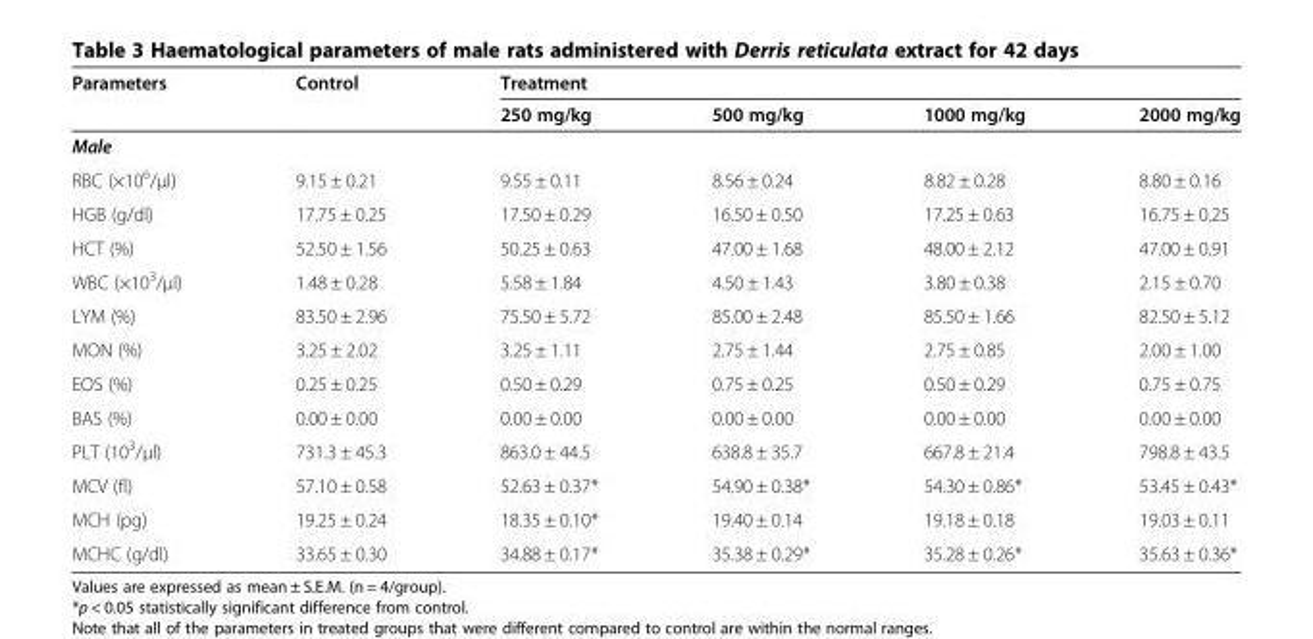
<table><thead><tr><td rowspan="2">Parameters</td><td rowspan="2">Control</td><td colspan="4">Treatment</td></tr><tr><td>250 mg/kg</td><td>500 mg/kg</td><td>1000 mg/kg</td><td>2000 mg/kg</td></tr></thead><tbody><tr><td colspan="6">Male</td></tr><tr><td>RBC (×10<sup>6</sup>/μl)</td><td>9.15 ± 0.21</td><td>9.55 ± 0.11</td><td>8.56 ± 0.24</td><td>8.82 ± 0.28</td><td>8.80 ± 0.16</td></tr><tr><td>HGB (g/dl)</td><td>17.75 ± 0.25</td><td>17.50 ± 0.29</td><td>16.50 ± 0.50</td><td>17.25 ± 0.63</td><td>16.75 ± 0.25</td></tr><tr><td>HCT (%)</td><td>52.50 ± 1.56</td><td>50.25 ± 0.63</td><td>47.00 ± 1.68</td><td>48.00 ± 2.12</td><td>47.00 ± 0.91</td></tr><tr><td>WBC (×10<sup>3</sup>/μl)</td><td>1.48 ± 0.28</td><td>5.58 ± 1.84</td><td>4.50 ± 1.43</td><td>3.80 ± 0.38</td><td>2.15 ± 0.70</td></tr><tr><td>LYM (%)</td><td>83.50 ± 2.96</td><td>75.50 ± 5.72</td><td>85.00 ± 2.48</td><td>85.50 ± 1.66</td><td>82.50 ± 5.12</td></tr><tr><td>MON (%)</td><td>3.25 ± 2.02</td><td>3.25 ± 1.11</td><td>2.75 ± 1.44</td><td>2.75 ± 0.85</td><td>2.00 ± 1.00</td></tr><tr><td>EOS (%)</td><td>0.25 ± 0.25</td><td>0.50 ± 0.29</td><td>0.75 ± 0.25</td><td>0.50 ± 0.29</td><td>0.75 ± 0.75</td></tr><tr><td>BAS (%)</td><td>0.00 ± 0.00</td><td>0.00 ± 0.00</td><td>0.00 ± 0.00</td><td>0.00 ± 0.00</td><td>0.00 ± 0.00</td></tr><tr><td>PLT (10<sup>3</sup>/μl)</td><td>731.3 ± 45.3</td><td>863.0 ± 44.5</td><td>638.8 ± 35.7</td><td>667.8 ± 21.4</td><td>798.8 ± 43.5</td></tr><tr><td>MCV (fl)</td><td>57.10 ± 0.58</td><td>52.63 ± 0.37*</td><td>54.90 ± 0.38*</td><td>54.30 ± 0.86*</td><td>53.45 ± 0.43*</td></tr><tr><td>MCH (pg)</td><td>19.25 ± 0.24</td><td>18.35 ± 0.10*</td><td>19.40 ± 0.14</td><td>19.18 ± 0.18</td><td>19.03 ± 0.11</td></tr><tr><td>MCHC (g/dl)</td><td>33.65 ± 0.30</td><td>34.88 ± 0.17*</td><td>35.38 ± 0.29*</td><td>35.28 ± 0.26*</td><td>35.63 ± 0.36*</td></tr></tbody></table>